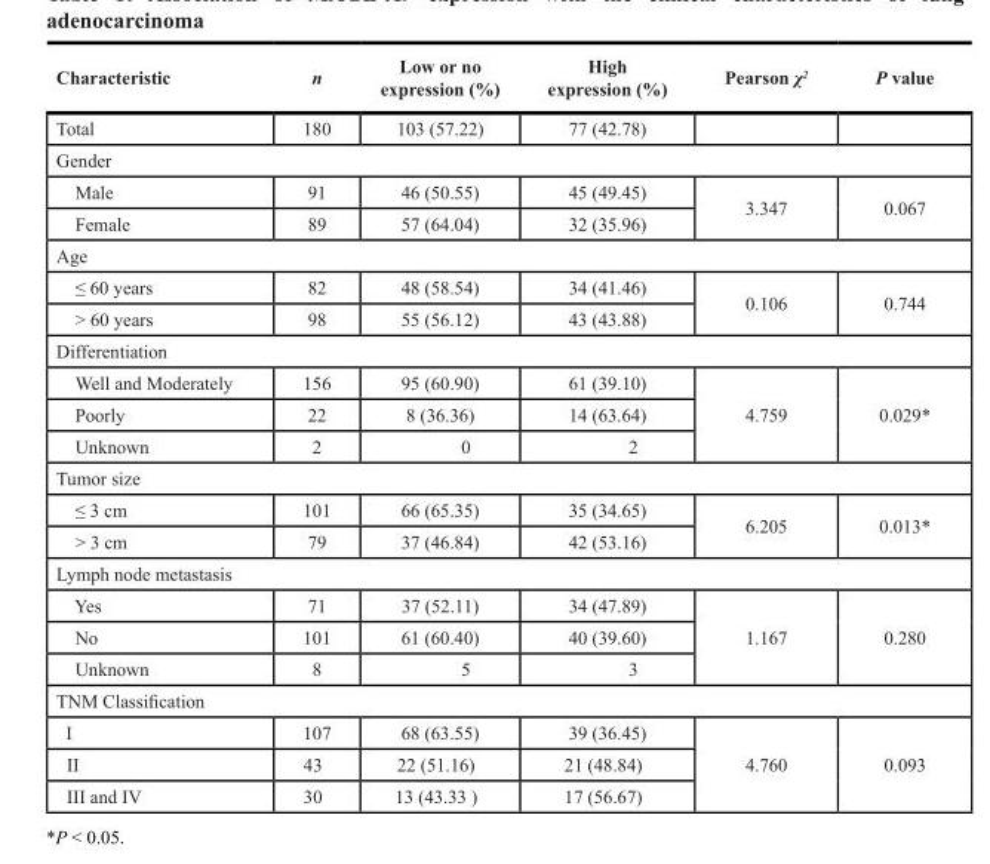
<table><thead><tr><td>Characteristic</td><td>n</td><td>Low or no expression (%)</td><td>High expression (%)</td><td>Pearson χ<sup>2</sup></td><td>P value</td></tr></thead><tbody><tr><td>Total</td><td>180</td><td>103 (57.22)</td><td>77 (42.78)</td><td></td><td></td></tr><tr><td colspan="6">Gender</td></tr><tr><td>Male</td><td>91</td><td>46 (50.55)</td><td>45 (49.45)</td><td rowspan="2">3.347</td><td rowspan="2">0.067</td></tr><tr><td>Female</td><td>89</td><td>57 (64.04)</td><td>32 (35.96)</td></tr><tr><td colspan="6">Age</td></tr><tr><td>≤ 60 years</td><td>82</td><td>48 (58.54)</td><td>34 (41.46)</td><td rowspan="2">0.106</td><td rowspan="2">0.744</td></tr><tr><td>&gt; 60 years</td><td>98</td><td>55 (56.12)</td><td>43 (43.88)</td></tr><tr><td colspan="6">Differentiation</td></tr><tr><td>Well and Moderately</td><td>156</td><td>95 (60.90)</td><td>61 (39.10)</td><td rowspan="3">4.759</td><td rowspan="3">0.029*</td></tr><tr><td>Poorly</td><td>22</td><td>8 (36.36)</td><td>14 (63.64)</td></tr><tr><td>Unknown</td><td>2</td><td>0</td><td>2</td></tr><tr><td colspan="6">Tumor size</td></tr><tr><td>≤ 3 cm</td><td>101</td><td>66 (65.35)</td><td>35 (34.65)</td><td rowspan="2">6.205</td><td rowspan="2">0.013*</td></tr><tr><td>&gt; 3 cm</td><td>79</td><td>37 (46.84)</td><td>42 (53.16)</td></tr><tr><td colspan="6">Lymph node metastasis</td></tr><tr><td>Yes</td><td>71</td><td>37 (52.11)</td><td>34 (47.89)</td><td rowspan="3">1.167</td><td rowspan="3">0.280</td></tr><tr><td>No</td><td>101</td><td>61 (60.40)</td><td>40 (39.60)</td></tr><tr><td>Unknown</td><td>8</td><td>5</td><td>3</td></tr><tr><td colspan="6">TNM Classification</td></tr><tr><td>I</td><td>107</td><td>68 (63.55)</td><td>39 (36.45)</td><td rowspan="3">4.760</td><td rowspan="3">0.093</td></tr><tr><td>II</td><td>43</td><td>22 (51.16)</td><td>21 (48.84)</td></tr><tr><td>III and IV</td><td>30</td><td>13 (43.33 )</td><td>17 (56.67)</td></tr></tbody></table>